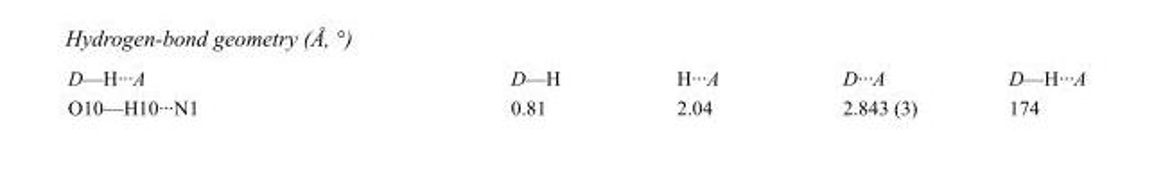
<table><tbody><tr><td>D—H···A</td><td>D—H</td><td>H···A</td><td>D···A</td><td>D—H···A</td></tr><tr><td>O10—H10···N1</td><td>0.81</td><td>2.04</td><td>2.843 (3)</td><td>174</td></tr></tbody></table>